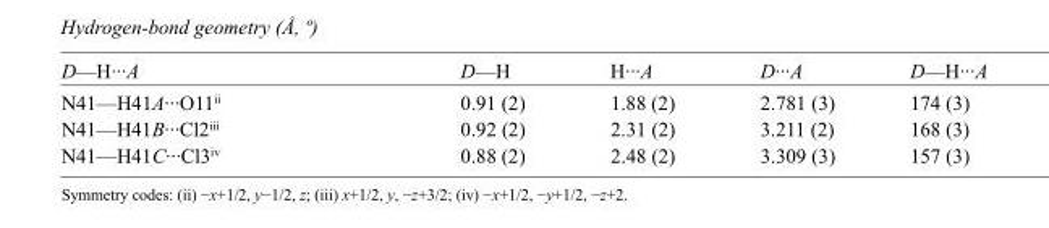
<table><tbody><tr><td>D—H···A</td><td>D—H</td><td>H···A</td><td>D···A</td><td>D—H···A</td></tr><tr><td>N41—H41A···O11<sup>ii</sup></td><td>0.91 (2)</td><td>1.88 (2)</td><td>2.781 (3)</td><td>174 (3)</td></tr><tr><td>N41—H41B···Cl2<sup>iii</sup></td><td>0.92 (2)</td><td>2.31 (2)</td><td>3.211 (2)</td><td>168 (3)</td></tr><tr><td>N41—H41C···Cl3<sup>iv</sup></td><td>0.88 (2)</td><td>2.48 (2)</td><td>3.309 (3)</td><td>157 (3)</td></tr></tbody></table>